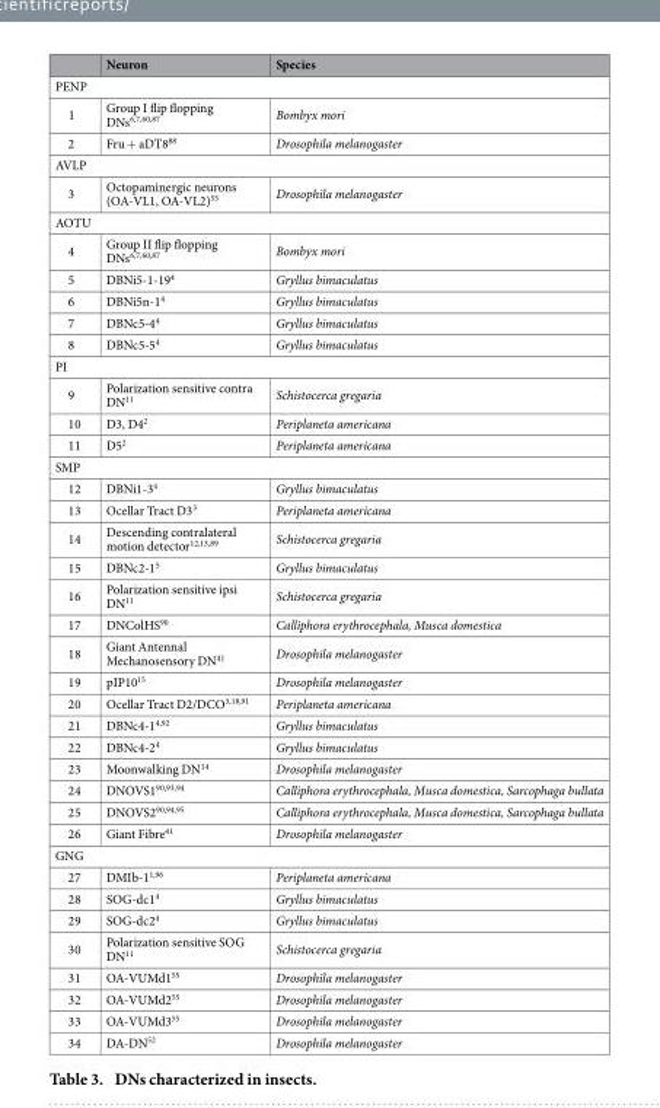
<table><thead><tr><td></td><td>Neuron</td><td>Species</td></tr></thead><tbody><tr><td colspan="3">PENP</td></tr><tr><td>1</td><td>Group I flip flopping DNs<sup>6</sup>,<sup>7</sup>,<sup>60</sup>,<sup>87</sup></td><td>Bombyx mori</td></tr><tr><td>2</td><td>Fru + aDT8<sup>88</sup></td><td>Drosophila melanogaster</td></tr><tr><td colspan="3">AVLP</td></tr><tr><td>3</td><td>Octopaminergic neurons (OA-VL1, OA-VL2)<sup>55</sup></td><td>Drosophila melanogaster</td></tr><tr><td colspan="3">AOTU</td></tr><tr><td>4</td><td>Group II flip flopping DNs<sup>6</sup>,<sup>7</sup>,<sup>60</sup>,<sup>87</sup></td><td>Bombyx mori</td></tr><tr><td>5</td><td>DBNi5-1-19<sup>4</sup></td><td>Gryllus bimaculatus</td></tr><tr><td>6</td><td>DBNi5n-1<sup>4</sup></td><td>Gryllus bimaculatus</td></tr><tr><td>7</td><td>DBNc5-4<sup>4</sup></td><td>Gryllus bimaculatus</td></tr><tr><td>8</td><td>DBNc5-5<sup>4</sup></td><td>Gryllus bimaculatus</td></tr><tr><td colspan="3">PI</td></tr><tr><td>9</td><td>Polarization sensitive contra DN<sup>11</sup></td><td>Schistocerca gregaria</td></tr><tr><td>10</td><td>D3, D4<sup>2</sup></td><td>Periplaneta americana</td></tr><tr><td>11</td><td>D5<sup>2</sup></td><td>Periplaneta americana</td></tr><tr><td colspan="3">SMP</td></tr><tr><td>12</td><td>DBNi1-3<sup>4</sup></td><td>Gryllus bimaculatus</td></tr><tr><td>13</td><td>Ocellar Tract D3<sup>3</sup></td><td>Periplaneta americana</td></tr><tr><td>14</td><td>Descending contralateral motion detector<sup>12</sup>,<sup>13</sup>,<sup>89</sup></td><td>Schistocerca gregaria</td></tr><tr><td>15</td><td>DBNc2-1<sup>5</sup></td><td>Gryllus bimaculatus</td></tr><tr><td>16</td><td>Polarization sensitive ipsi DN<sup>11</sup></td><td>Schistocerca gregaria</td></tr><tr><td>17</td><td>DNColHS<sup>90</sup></td><td>Calliphora erythrocephala, Musca domestica</td></tr><tr><td>18</td><td>Giant Antennal Mechanosensory DN<sup>41</sup></td><td>Drosophila melanogaster</td></tr><tr><td>19</td><td>pIP10<sup>15</sup></td><td>Drosophila melanogaster</td></tr><tr><td>20</td><td>Ocellar Tract D2/DCO<sup>3</sup>,<sup>18</sup>,<sup>91</sup></td><td>Periplaneta americana</td></tr><tr><td>21</td><td>DBNc4-1<sup>4</sup>,<sup>92</sup></td><td>Gryllus bimaculatus</td></tr><tr><td>22</td><td>DBNc4-2<sup>4</sup></td><td>Gryllus bimaculatus</td></tr><tr><td>23</td><td>Moonwalking DN<sup>14</sup></td><td>Drosophila melanogaster</td></tr><tr><td>24</td><td>DNOVS1<sup>90</sup>,<sup>93</sup>,<sup>94</sup></td><td>Calliphora erythrocephala, Musca domestica, Sarcophaga bullata</td></tr><tr><td>25</td><td>DNOVS2<sup>90</sup>,<sup>94</sup>,<sup>95</sup></td><td>Calliphora erythrocephala, Musca domestica, Sarcophaga bullata</td></tr><tr><td>26</td><td>Giant Fibre<sup>41</sup></td><td>Drosophila melanogaster</td></tr><tr><td colspan="3">GNG</td></tr><tr><td>27</td><td>DMIb-1<sup>1</sup>,<sup>96</sup></td><td>Periplaneta americana</td></tr><tr><td>28</td><td>SOG-dc1<sup>4</sup></td><td>Gryllus bimaculatus</td></tr><tr><td>29</td><td>SOG-dc2<sup>4</sup></td><td>Gryllus bimaculatus</td></tr><tr><td>30</td><td>Polarization sensitive SOG DN<sup>11</sup></td><td>Schistocerca gregaria</td></tr><tr><td>31</td><td>OA-VUMd1<sup>55</sup></td><td>Drosophila melanogaster</td></tr><tr><td>32</td><td>OA-VUMd2<sup>55</sup></td><td>Drosophila melanogaster</td></tr><tr><td>33</td><td>OA-VUMd3<sup>55</sup></td><td>Drosophila melanogaster</td></tr><tr><td>34</td><td>DA-DN<sup>52</sup></td><td>Drosophila melanogaster</td></tr></tbody></table>